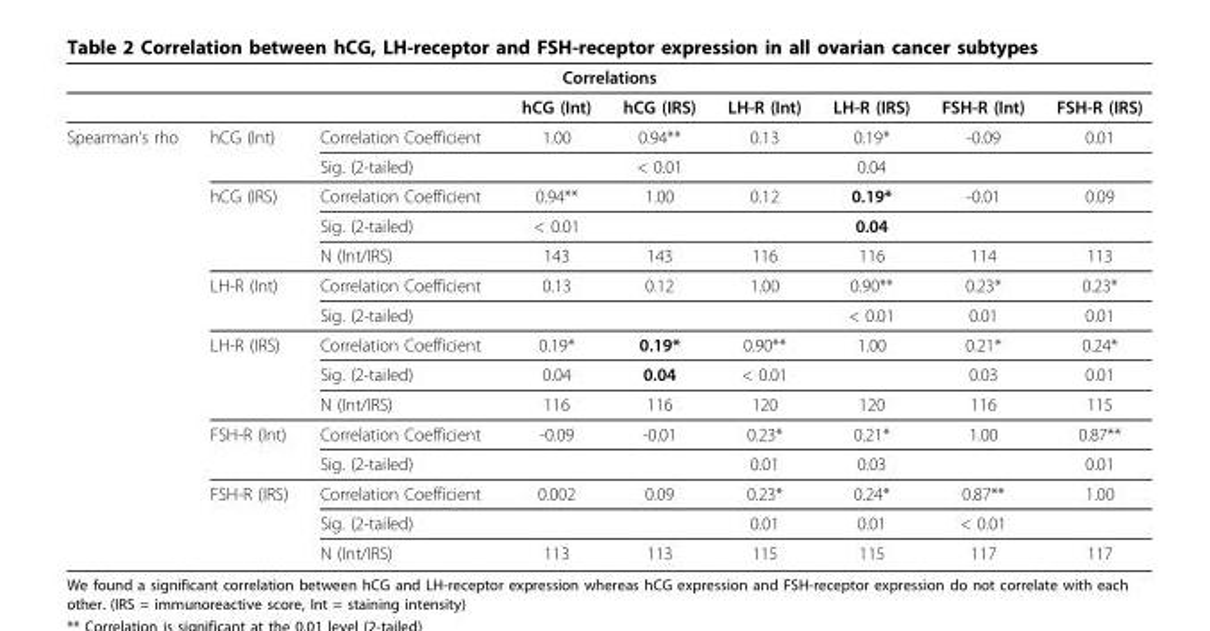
<table><thead><tr><td colspan="9">Correlations</td></tr><tr><td></td><td></td><td></td><td>hCG (Int)</td><td>hCG (IRS)</td><td>LH-R (Int)</td><td>LH-R (IRS)</td><td>FSH-R (Int)</td><td>FSH-R (IRS)</td></tr></thead><tbody><tr><td rowspan="15">Spearman’s rho</td><td>hCG (Int)</td><td>Correlation Coefficient</td><td>1.00</td><td>0.94**</td><td>0.13</td><td>0.19*</td><td>-0.09</td><td>0.01</td></tr><tr><td></td><td>Sig. (2-tailed)</td><td></td><td>&lt; 0.01</td><td></td><td>0.04</td><td></td><td></td></tr><tr><td>hCG (IRS)</td><td>Correlation Coefficient</td><td>0.94**</td><td>1.00</td><td>0.12</td><td>0.19*</td><td>-0.01</td><td>0.09</td></tr><tr><td></td><td>Sig. (2-tailed)</td><td>&lt; 0.01</td><td></td><td></td><td>0.04</td><td></td><td></td></tr><tr><td></td><td>N (Int/IRS)</td><td>143</td><td>143</td><td>116</td><td>116</td><td>114</td><td>113</td></tr><tr><td>LH-R (Int)</td><td>Correlation Coefficient</td><td>0.13</td><td>0.12</td><td>1.00</td><td>0.90**</td><td>0.23*</td><td>0.23*</td></tr><tr><td></td><td>Sig. (2-tailed)</td><td></td><td></td><td></td><td>&lt; 0.01</td><td>0.01</td><td>0.01</td></tr><tr><td>LH-R (IRS)</td><td>Correlation Coefficient</td><td>0.19*</td><td>0.19*</td><td>0.90**</td><td>1.00</td><td>0.21*</td><td>0.24*</td></tr><tr><td></td><td>Sig. (2-tailed)</td><td>0.04</td><td>0.04</td><td>&lt; 0.01</td><td></td><td>0.03</td><td>0.01</td></tr><tr><td></td><td>N (Int/IRS)</td><td>116</td><td>116</td><td>120</td><td>120</td><td>116</td><td>115</td></tr><tr><td>FSH-R (Int)</td><td>Correlation Coefficient</td><td>-0.09</td><td>-0.01</td><td>0.23*</td><td>0.21*</td><td>1.00</td><td>0.87**</td></tr><tr><td></td><td>Sig. (2-tailed)</td><td></td><td></td><td>0.01</td><td>0.03</td><td></td><td>0.01</td></tr><tr><td>FSH-R (IRS)</td><td>Correlation Coefficient</td><td>0.002</td><td>0.09</td><td>0.23*</td><td>0.24*</td><td>0.87**</td><td>1.00</td></tr><tr><td></td><td>Sig. (2-tailed)</td><td></td><td></td><td>0.01</td><td>0.01</td><td>&lt; 0.01</td><td></td></tr><tr><td></td><td>N (Int/IRS)</td><td>113</td><td>113</td><td>115</td><td>115</td><td>117</td><td>117</td></tr></tbody></table>